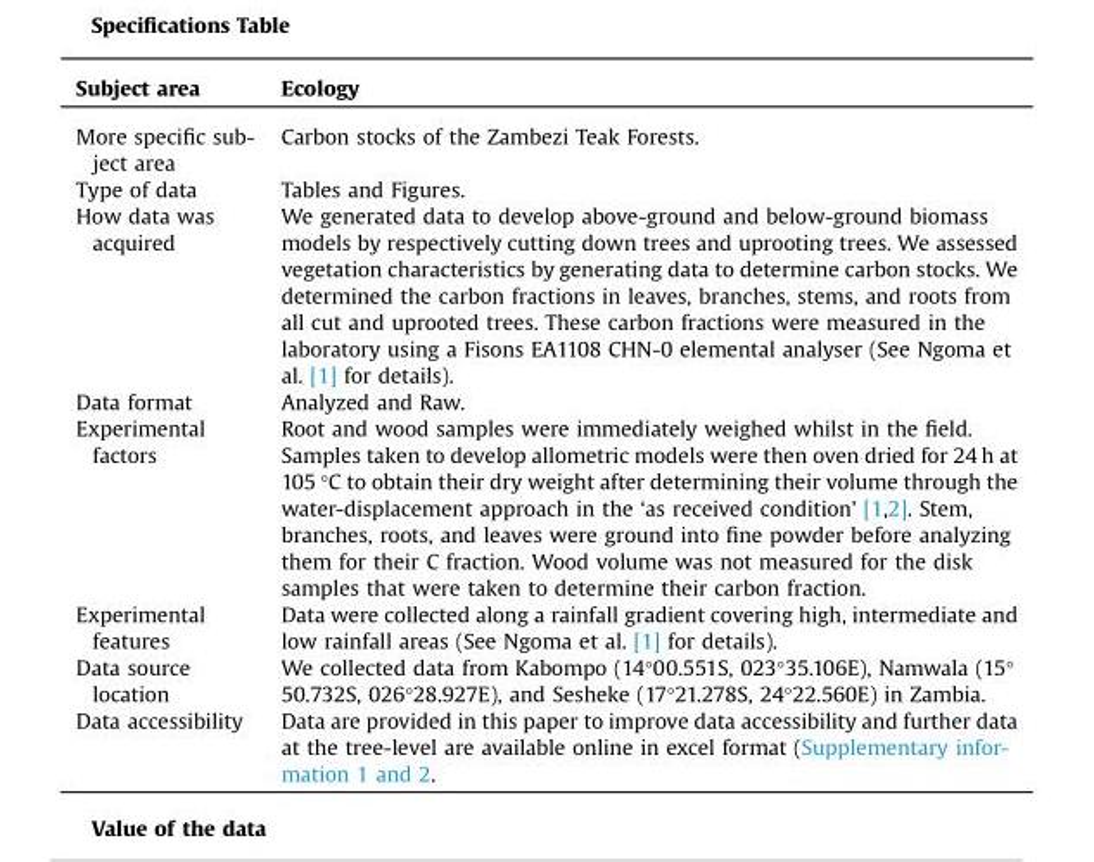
<table><thead><tr><td>Subject area</td><td>Ecology</td></tr></thead><tbody><tr><td>More specific sub- ject area</td><td>Carbon stocks of the Zambezi Teak Forests.</td></tr><tr><td>Type of data</td><td>Tables and Figures.</td></tr><tr><td>How data was acquired</td><td>We generated data to develop above-ground and below-ground biomass models by respectively cutting down trees and uprooting trees. We assessed vegetation characteristics by generating data to determine carbon stocks. We determined the carbon fractions in leaves, branches, stems, and roots from all cut and uprooted trees. These carbon fractions were measured in the laboratory using a Fisons EA1108 CHN-0 elemental analyser (See Ngoma et al. [1] for details).</td></tr><tr><td>Data format</td><td>Analyzed and Raw.</td></tr><tr><td>Experimental factors</td><td>Root and wood samples were immediately weighed whilst in the field. Samples taken to develop allometric models were then oven dried for 24 h at 105 °C to obtain their dry weight after determining their volume through the water-displacement approach in the ‘as received condition’ [1,2]. Stem, branches, roots, and leaves were ground into fine powder before analyzing them for their C fraction. Wood volume was not measured for the disk samples that were taken to determine their carbon fraction.</td></tr><tr><td>Experimental features</td><td>Data were collected along a rainfall gradient covering high, intermediate and low rainfall areas (See Ngoma et al. [1] for details).</td></tr><tr><td>Data source location</td><td>We collected data from Kabompo (14°00.551S, 023°35.106E), Namwala (15° 50.732S, 026°28.927E), and Sesheke (17°21.278S, 24°22.560E) in Zambia.</td></tr><tr><td>Data accessibility</td><td>Data are provided in this paper to improve data accessibility and further data at the tree-level are available online in excel format (Supplementary infor- mation 1 and 2.</td></tr></tbody></table>